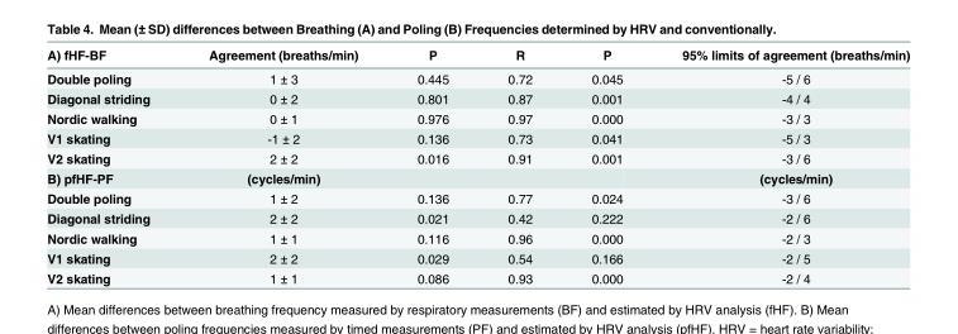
<table><thead><tr><td>A) fHF-BF</td><td>Agreement (breaths/min)</td><td>P</td><td>R</td><td>P</td><td>95% limits of agreement (breaths/min)</td></tr></thead><tbody><tr><td>Double poling</td><td>1 ± 3</td><td>0.445</td><td>0.72</td><td>0.045</td><td>-5 / 6</td></tr><tr><td>Diagonal striding</td><td>0 ± 2</td><td>0.801</td><td>0.87</td><td>0.001</td><td>-4 / 4</td></tr><tr><td>Nordic walking</td><td>0 ± 1</td><td>0.976</td><td>0.97</td><td>0.000</td><td>-3 / 3</td></tr><tr><td>V1 skating</td><td>-1 ± 2</td><td>0.136</td><td>0.73</td><td>0.041</td><td>-5 / 3</td></tr><tr><td>V2 skating</td><td>2 ± 2</td><td>0.016</td><td>0.91</td><td>0.001</td><td>-3 / 6</td></tr><tr><td>B) pfHF-PF</td><td>(cycles/min)</td><td></td><td></td><td></td><td>(cycles/min)</td></tr><tr><td>Double poling</td><td>1 ± 2</td><td>0.136</td><td>0.77</td><td>0.024</td><td>-3 / 6</td></tr><tr><td>Diagonal striding</td><td>2 ± 2</td><td>0.021</td><td>0.42</td><td>0.222</td><td>-2 / 6</td></tr><tr><td>Nordic walking</td><td>1 ± 1</td><td>0.116</td><td>0.96</td><td>0.000</td><td>-2 / 3</td></tr><tr><td>V1 skating</td><td>2 ± 2</td><td>0.029</td><td>0.54</td><td>0.166</td><td>-2 / 5</td></tr><tr><td>V2 skating</td><td>1 ± 1</td><td>0.086</td><td>0.93</td><td>0.000</td><td>-2 / 4</td></tr></tbody></table>